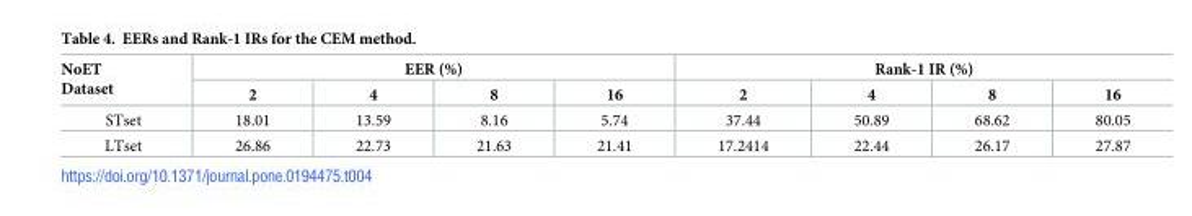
<table><thead><tr><td rowspan="2">NoET Dataset</td><td colspan="4">EER (%)</td><td colspan="4">Rank-1 IR (%)</td></tr><tr><td>2</td><td>4</td><td>8</td><td>16</td><td>2</td><td>4</td><td>8</td><td>16</td></tr></thead><tbody><tr><td>STset</td><td>18.01</td><td>13.59</td><td>8.16</td><td>5.74</td><td>37.44</td><td>50.89</td><td>68.62</td><td>80.05</td></tr><tr><td>LTset</td><td>26.86</td><td>22.73</td><td>21.63</td><td>21.41</td><td>17.2414</td><td>22.44</td><td>26.17</td><td>27.87</td></tr></tbody></table>